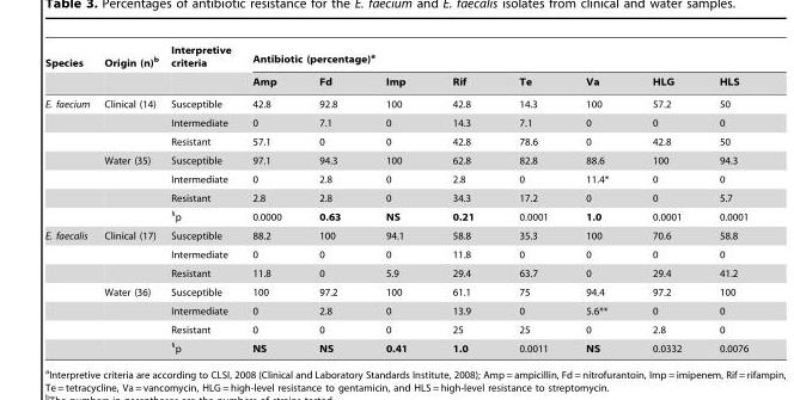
<table><thead><tr><td rowspan="2">Species</td><td rowspan="2">Origin (n)<sup>b</sup></td><td rowspan="2">Interpretive criteria</td><td colspan="8">Antibiotic (percentage)<sup>a</sup></td></tr><tr><td>Amp</td><td>Fd</td><td>Imp</td><td>Rif</td><td>Te</td><td>Va</td><td>HLG</td><td>HLS</td></tr></thead><tbody><tr><td rowspan="7">E. faecium</td><td>Clinical (14)</td><td>Susceptible</td><td>42.8</td><td>92.8</td><td>100</td><td>42.8</td><td>14.3</td><td>100</td><td>57.2</td><td>50</td></tr><tr><td></td><td>Intermediate</td><td>0</td><td>7.1</td><td>0</td><td>14.3</td><td>7.1</td><td>0</td><td>0</td><td>0</td></tr><tr><td></td><td>Resistant</td><td>57.1</td><td>0</td><td>0</td><td>42.8</td><td>78.6</td><td>0</td><td>42.8</td><td>50</td></tr><tr><td>Water (35)</td><td>Susceptible</td><td>97.1</td><td>94.3</td><td>100</td><td>62.8</td><td>82.8</td><td>88.6</td><td>100</td><td>94.3</td></tr><tr><td></td><td>Intermediate</td><td>0</td><td>2.8</td><td>0</td><td>2.8</td><td>0</td><td>11.4*</td><td>0</td><td>0</td></tr><tr><td></td><td>Resistant</td><td>2.8</td><td>2.8</td><td>0</td><td>34.3</td><td>17.2</td><td>0</td><td>0</td><td>5.7</td></tr><tr><td></td><td>§p</td><td>0.0000</td><td>0.63</td><td>NS</td><td>0.21</td><td>0.0001</td><td>1.0</td><td>0.0001</td><td>0.0001</td></tr><tr><td rowspan="7">E. faecalis</td><td>Clinical (17)</td><td>Susceptible</td><td>88.2</td><td>100</td><td>94.1</td><td>58.8</td><td>35.3</td><td>100</td><td>70.6</td><td>58.8</td></tr><tr><td></td><td>Intermediate</td><td>0</td><td>0</td><td>0</td><td>11.8</td><td>0</td><td>0</td><td>0</td><td>0</td></tr><tr><td></td><td>Resistant</td><td>11.8</td><td>0</td><td>5.9</td><td>29.4</td><td>63.7</td><td>0</td><td>29.4</td><td>41.2</td></tr><tr><td>Water (36)</td><td>Susceptible</td><td>100</td><td>97.2</td><td>100</td><td>61.1</td><td>75</td><td>94.4</td><td>97.2</td><td>100</td></tr><tr><td></td><td>Intermediate</td><td>0</td><td>2.8</td><td>0</td><td>13.9</td><td>0</td><td>5.6**</td><td>0</td><td>0</td></tr><tr><td></td><td>Resistant</td><td>0</td><td>0</td><td>0</td><td>25</td><td>25</td><td>0</td><td>2.8</td><td>0</td></tr><tr><td></td><td>§p</td><td>NS</td><td>NS</td><td>0.41</td><td>1.0</td><td>0.0011</td><td>NS</td><td>0.0332</td><td>0.0076</td></tr></tbody></table>